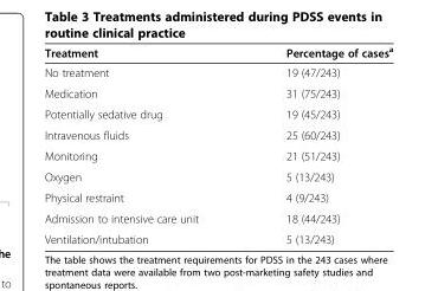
<table><thead><tr><td>Treatment</td><td>Percentage of cases<sup>a</sup></td></tr></thead><tbody><tr><td>No treatment</td><td>19 (47/243)</td></tr><tr><td>Medication</td><td>31 (75/243)</td></tr><tr><td>Potentially sedative drug</td><td>19 (45/243)</td></tr><tr><td>Intravenous fluids</td><td>25 (60/243)</td></tr><tr><td>Monitoring</td><td>21 (51/243)</td></tr><tr><td>Oxygen</td><td>5 (13/243)</td></tr><tr><td>Physical restraint</td><td>4 (9/243)</td></tr><tr><td>Admission to intensive care unit</td><td>18 (44/243)</td></tr><tr><td>Ventilation/intubation</td><td>5 (13/243)</td></tr></tbody></table>